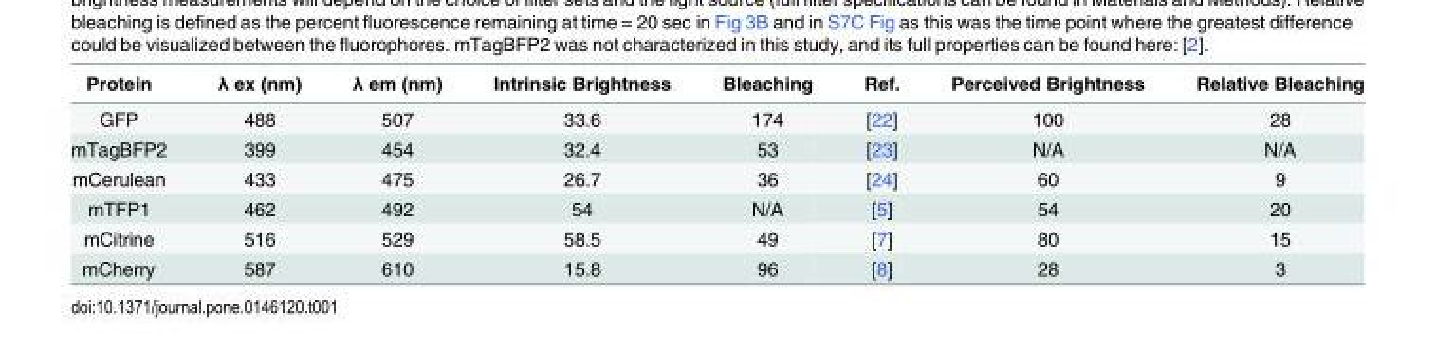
<table><thead><tr><td>Protein</td><td>λ ex (nm)</td><td>λ em (nm)</td><td>Intrinsic Brightness</td><td>Bleaching</td><td>Ref.</td><td>Perceived Brightness</td><td>Relative Bleaching</td></tr></thead><tbody><tr><td>GFP</td><td>488</td><td>507</td><td>33.6</td><td>174</td><td>[22]</td><td>100</td><td>28</td></tr><tr><td>mTagBFP2</td><td>399</td><td>454</td><td>32.4</td><td>53</td><td>[23]</td><td>N/A</td><td>N/A</td></tr><tr><td>mCerulean</td><td>433</td><td>475</td><td>26.7</td><td>36</td><td>[24]</td><td>60</td><td>9</td></tr><tr><td>mTFP1</td><td>462</td><td>492</td><td>54</td><td>N/A</td><td>[5]</td><td>54</td><td>20</td></tr><tr><td>mCitrine</td><td>516</td><td>529</td><td>58.5</td><td>49</td><td>[7]</td><td>80</td><td>15</td></tr><tr><td>mCherry</td><td>587</td><td>610</td><td>15.8</td><td>96</td><td>[8]</td><td>28</td><td>3</td></tr></tbody></table>